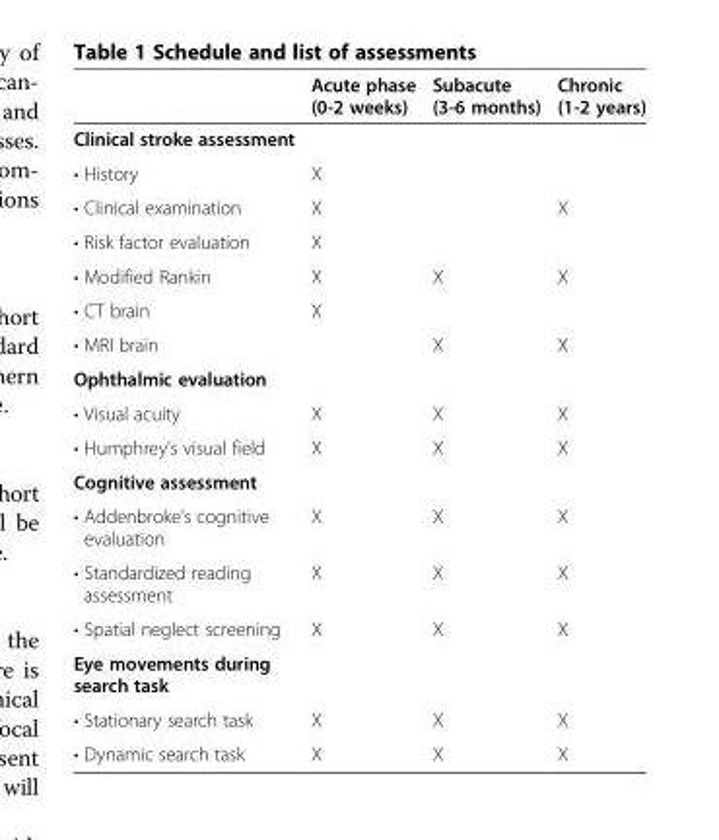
<table><thead><tr><td></td><td>Acute phase (0-2 weeks)</td><td>Subacute (3-6 months)</td><td>Chronic (1-2 years)</td></tr></thead><tbody><tr><td colspan="4">Clinical stroke assessment</td></tr><tr><td>• History</td><td>X</td><td></td><td></td></tr><tr><td>• Clinical examination</td><td>X</td><td></td><td>X</td></tr><tr><td>• Risk factor evaluation</td><td>X</td><td></td><td></td></tr><tr><td>• Modified Rankin</td><td>X</td><td>X</td><td>X</td></tr><tr><td>• CT brain</td><td>X</td><td></td><td></td></tr><tr><td>• MRI brain</td><td></td><td>X</td><td>X</td></tr><tr><td colspan="4">Ophthalmic evaluation</td></tr><tr><td>• Visual acuity</td><td>X</td><td>X</td><td>X</td></tr><tr><td>• Humphrey’s visual field</td><td>X</td><td>X</td><td>X</td></tr><tr><td colspan="4">Cognitive assessment</td></tr><tr><td>• Addenbroke’s cognitive evaluation</td><td>X</td><td>X</td><td>X</td></tr><tr><td>• Standardized reading assessment</td><td>X</td><td>X</td><td>X</td></tr><tr><td>• Spatial neglect screening</td><td>X</td><td>X</td><td>X</td></tr><tr><td colspan="4">Eye movements during search task</td></tr><tr><td>• Stationary search task</td><td>X</td><td>X</td><td>X</td></tr><tr><td>• Dynamic search task</td><td>X</td><td>X</td><td>X</td></tr></tbody></table>